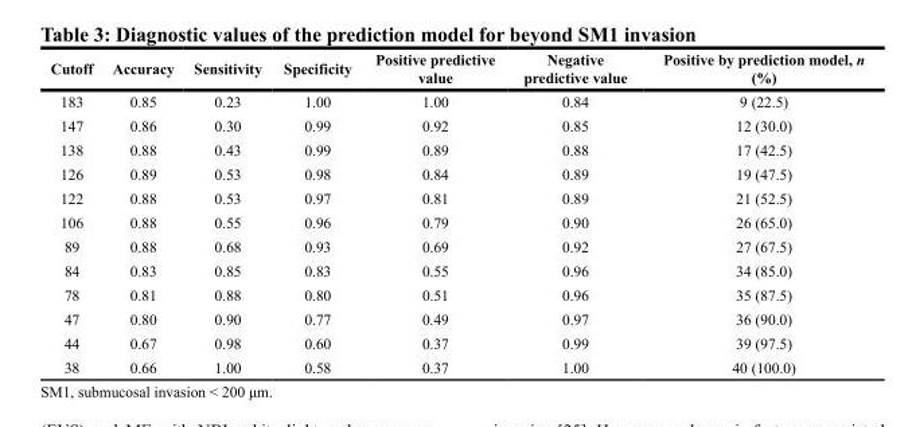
<table><thead><tr><td>Cutoff</td><td>Accuracy</td><td>Sensitivity</td><td>Specificity</td><td>Positive predictive value</td><td>Negative predictive value</td><td>Positive by prediction model, n (%)</td></tr></thead><tbody><tr><td>183</td><td>0.85</td><td>0.23</td><td>1.00</td><td>1.00</td><td>0.84</td><td>9 (22.5)</td></tr><tr><td>147</td><td>0.86</td><td>0.30</td><td>0.99</td><td>0.92</td><td>0.85</td><td>12 (30.0)</td></tr><tr><td>138</td><td>0.88</td><td>0.43</td><td>0.99</td><td>0.89</td><td>0.88</td><td>17 (42.5)</td></tr><tr><td>126</td><td>0.89</td><td>0.53</td><td>0.98</td><td>0.84</td><td>0.89</td><td>19 (47.5)</td></tr><tr><td>122</td><td>0.88</td><td>0.53</td><td>0.97</td><td>0.81</td><td>0.89</td><td>21 (52.5)</td></tr><tr><td>106</td><td>0.88</td><td>0.55</td><td>0.96</td><td>0.79</td><td>0.90</td><td>26 (65.0)</td></tr><tr><td>89</td><td>0.88</td><td>0.68</td><td>0.93</td><td>0.69</td><td>0.92</td><td>27 (67.5)</td></tr><tr><td>84</td><td>0.83</td><td>0.85</td><td>0.83</td><td>0.55</td><td>0.96</td><td>34 (85.0)</td></tr><tr><td>78</td><td>0.81</td><td>0.88</td><td>0.80</td><td>0.51</td><td>0.96</td><td>35 (87.5)</td></tr><tr><td>47</td><td>0.80</td><td>0.90</td><td>0.77</td><td>0.49</td><td>0.97</td><td>36 (90.0)</td></tr><tr><td>44</td><td>0.67</td><td>0.98</td><td>0.60</td><td>0.37</td><td>0.99</td><td>39 (97.5)</td></tr><tr><td>38</td><td>0.66</td><td>1.00</td><td>0.58</td><td>0.37</td><td>1.00</td><td>40 (100.0)</td></tr></tbody></table>